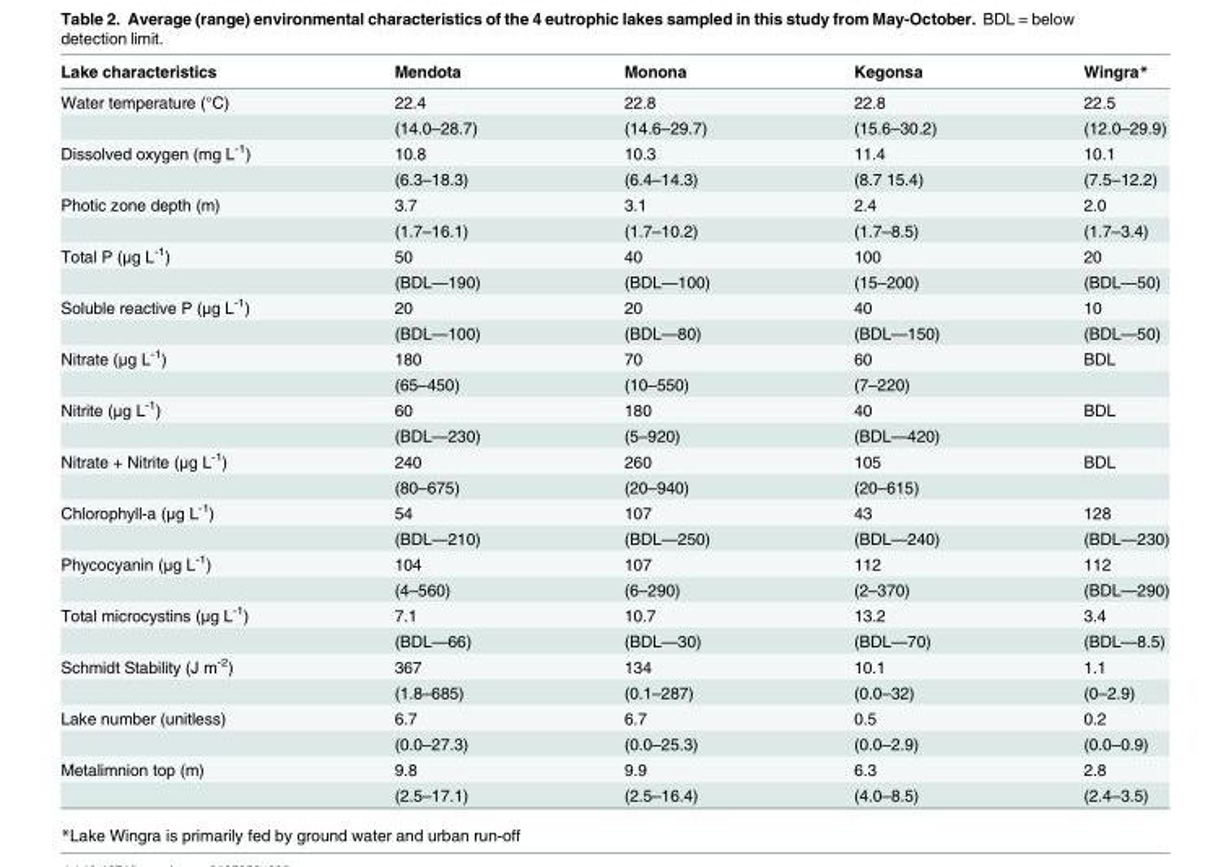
<table><thead><tr><td>Lake characteristics</td><td>Mendota</td><td>Monona</td><td>Kegonsa</td><td>Wingra*</td></tr></thead><tbody><tr><td rowspan="2">Water temperature (°C)</td><td>22.4</td><td>22.8</td><td>22.8</td><td>22.5</td></tr><tr><td>(14.0–28.7)</td><td>(14.6–29.7)</td><td>(15.6–30.2)</td><td>(12.0–29.9)</td></tr><tr><td rowspan="2">Dissolved oxygen (mg L<sup>-1</sup>)</td><td>10.8</td><td>10.3</td><td>11.4</td><td>10.1</td></tr><tr><td>(6.3–18.3)</td><td>(6.4–14.3)</td><td>(8.7 15.4)</td><td>(7.5–12.2)</td></tr><tr><td rowspan="2">Photic zone depth (m)</td><td>3.7</td><td>3.1</td><td>2.4</td><td>2.0</td></tr><tr><td>(1.7–16.1)</td><td>(1.7–10.2)</td><td>(1.7–8.5)</td><td>(1.7–3.4)</td></tr><tr><td rowspan="2">Total P (μg L<sup>-1</sup>)</td><td>50</td><td>40</td><td>100</td><td>20</td></tr><tr><td>(BDL—190)</td><td>(BDL—100)</td><td>(15–200)</td><td>(BDL—50)</td></tr><tr><td rowspan="2">Soluble reactive P (μg L<sup>-1</sup>)</td><td>20</td><td>20</td><td>40</td><td>10</td></tr><tr><td>(BDL—100)</td><td>(BDL—80)</td><td>(BDL—150)</td><td>(BDL—50)</td></tr><tr><td rowspan="2">Nitrate (μg L<sup>-1</sup>)</td><td>180</td><td>70</td><td>60</td><td>BDL</td></tr><tr><td>(65–450)</td><td>(10–550)</td><td>(7–220)</td><td></td></tr><tr><td rowspan="2">Nitrite (μg L<sup>-1</sup>)</td><td>60</td><td>180</td><td>40</td><td>BDL</td></tr><tr><td>(BDL—230)</td><td>(5–920)</td><td>(BDL—420)</td><td></td></tr><tr><td rowspan="2">Nitrate + Nitrite (μg L<sup>-1</sup>)</td><td>240</td><td>260</td><td>105</td><td>BDL</td></tr><tr><td>(80–675)</td><td>(20–940)</td><td>(20–615)</td><td></td></tr><tr><td rowspan="2">Chlorophyll-a (μg L<sup>-1</sup>)</td><td>54</td><td>107</td><td>43</td><td>128</td></tr><tr><td>(BDL—210)</td><td>(BDL—250)</td><td>(BDL—240)</td><td>(BDL—230)</td></tr><tr><td rowspan="2">Phycocyanin (μg L<sup>-1</sup>)</td><td>104</td><td>107</td><td>112</td><td>112</td></tr><tr><td>(4–560)</td><td>(6–290)</td><td>(2–370)</td><td>(BDL—290)</td></tr><tr><td rowspan="2">Total microcystins (μg L<sup>-1</sup>)</td><td>7.1</td><td>10.7</td><td>13.2</td><td>3.4</td></tr><tr><td>(BDL—66)</td><td>(BDL—30)</td><td>(BDL—70)</td><td>(BDL—8.5)</td></tr><tr><td rowspan="2">Schmidt Stability (J m<sup>-2</sup>)</td><td>367</td><td>134</td><td>10.1</td><td>1.1</td></tr><tr><td>(1.8–685)</td><td>(0.1–287)</td><td>(0.0–32)</td><td>(0–2.9)</td></tr><tr><td rowspan="2">Lake number (unitless)</td><td>6.7</td><td>6.7</td><td>0.5</td><td>0.2</td></tr><tr><td>(0.0–27.3)</td><td>(0.0–25.3)</td><td>(0.0–2.9)</td><td>(0.0–0.9)</td></tr><tr><td rowspan="2">Metalimnion top (m)</td><td>9.8</td><td>9.9</td><td>6.3</td><td>2.8</td></tr><tr><td>(2.5–17.1)</td><td>(2.5–16.4)</td><td>(4.0–8.5)</td><td>(2.4–3.5)</td></tr></tbody></table>